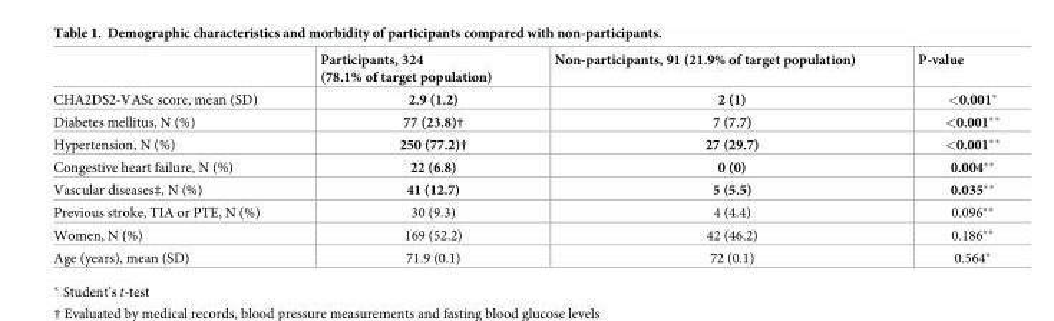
<table><thead><tr><td></td><td>Participants, 324 (78.1% of target population)</td><td>Non-participants, 91 (21.9% of target population)</td><td>P-value</td></tr></thead><tbody><tr><td>CHA2DS2-VASc score, mean (SD)</td><td>2.9 (1.2)</td><td>2 (1)</td><td>&lt;0.001*</td></tr><tr><td>Diabetes mellitus, N (%)</td><td>77 (23.8)†</td><td>7 (7.7)</td><td>&lt;0.001**</td></tr><tr><td>Hypertension, N (%)</td><td>250 (77.2)†</td><td>27 (29.7)</td><td>&lt;0.001**</td></tr><tr><td>Congestive heart failure, N (%)</td><td>22 (6.8)</td><td>0 (0)</td><td>0.004**</td></tr><tr><td>Vascular diseases‡, N (%)</td><td>41 (12.7)</td><td>5 (5.5)</td><td>0.035**</td></tr><tr><td>Previous stroke, TIA or PTE, N (%)</td><td>30 (9.3)</td><td>4 (4.4)</td><td>0.096**</td></tr><tr><td>Women, N (%)</td><td>169 (52.2)</td><td>42 (46.2)</td><td>0.186**</td></tr><tr><td>Age (years), mean (SD)</td><td>71.9 (0.1)</td><td>72 (0.1)</td><td>0.564*</td></tr></tbody></table>